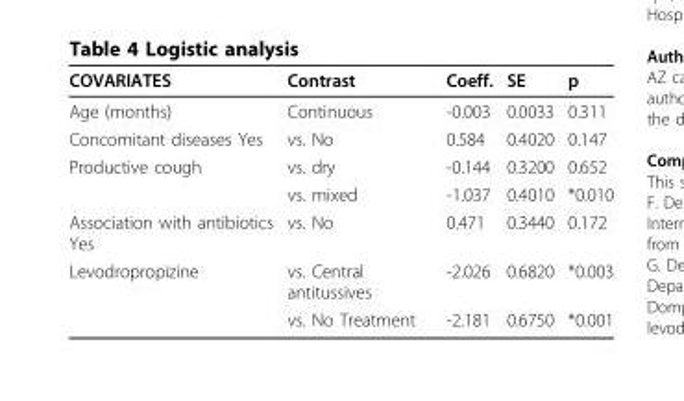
<table><thead><tr><td>COVARIATES</td><td>Contrast</td><td>Coeff.</td><td>SE</td><td>p</td></tr></thead><tbody><tr><td>Age (months)</td><td>Continuous</td><td>-0.003</td><td>0.0033</td><td>0.311</td></tr><tr><td>Concomitant diseases Yes</td><td>vs. No</td><td>0.584</td><td>0.4020</td><td>0.147</td></tr><tr><td rowspan="2">Productive cough</td><td>vs. dry</td><td>-0.144</td><td>0.3200</td><td>0.652</td></tr><tr><td>vs. mixed</td><td>-1.037</td><td>0.4010</td><td>*0.010</td></tr><tr><td>Association with antibiotics Yes</td><td>vs. No</td><td>0.471</td><td>0.3440</td><td>0.172</td></tr><tr><td rowspan="2">Levodropropizine</td><td>vs. Central antitussives</td><td>-2.026</td><td>0.6820</td><td>*0.003</td></tr><tr><td>vs. No Treatment</td><td>-2.181</td><td>0.6750</td><td>*0.001</td></tr></tbody></table>